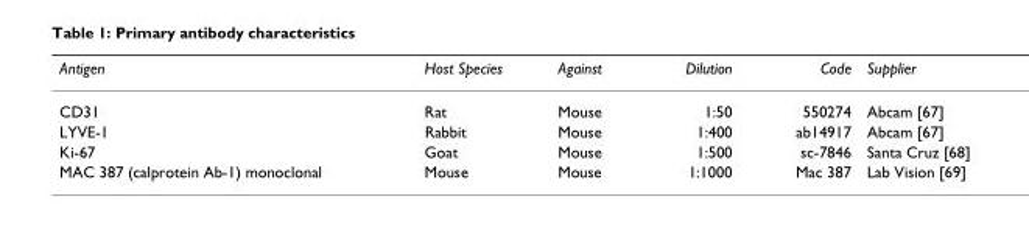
<table><thead><tr><td>Antigen</td><td>Host Species</td><td>Against</td><td>Dilution</td><td>Code</td><td>Supplier</td></tr></thead><tbody><tr><td>CD31</td><td>Rat</td><td>Mouse</td><td>1:50</td><td>550274</td><td>Abcam [67]</td></tr><tr><td>LYVE-1</td><td>Rabbit</td><td>Mouse</td><td>1:400</td><td>ab14917</td><td>Abcam [67]</td></tr><tr><td>Ki-67</td><td>Goat</td><td>Mouse</td><td>1:500</td><td>sc-7846</td><td>Santa Cruz [68]</td></tr><tr><td>MAC 387 (calprotein Ab-1) monoclonal</td><td>Mouse</td><td>Mouse</td><td>1:1000</td><td>Mac 387</td><td>Lab Vision [69]</td></tr></tbody></table>